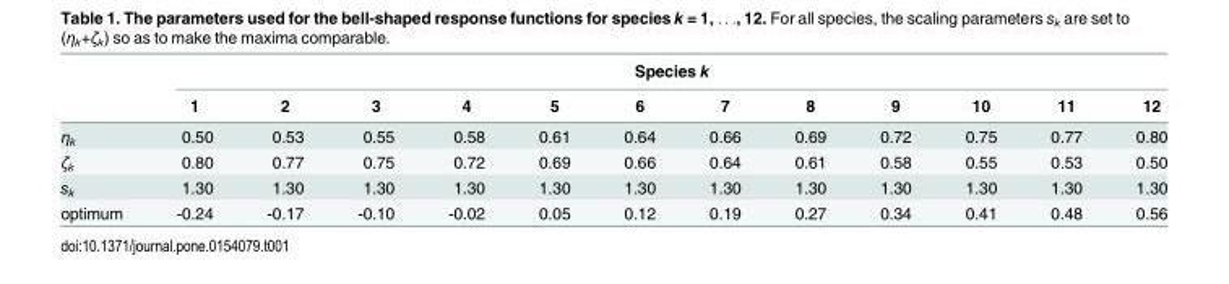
<table><thead><tr><td rowspan="2"></td><td colspan="12">Species k</td></tr><tr><td>1</td><td>2</td><td>3</td><td>4</td><td>5</td><td>6</td><td>7</td><td>8</td><td>9</td><td>10</td><td>11</td><td>12</td></tr></thead><tbody><tr><td>η<sub>k</sub></td><td>0.50</td><td>0.53</td><td>0.55</td><td>0.58</td><td>0.61</td><td>0.64</td><td>0.66</td><td>0.69</td><td>0.72</td><td>0.75</td><td>0.77</td><td>0.80</td></tr><tr><td>ζ<sub>k</sub></td><td>0.80</td><td>0.77</td><td>0.75</td><td>0.72</td><td>0.69</td><td>0.66</td><td>0.64</td><td>0.61</td><td>0.58</td><td>0.55</td><td>0.53</td><td>0.50</td></tr><tr><td>s<sub>k</sub></td><td>1.30</td><td>1.30</td><td>1.30</td><td>1.30</td><td>1.30</td><td>1.30</td><td>1.30</td><td>1.30</td><td>1.30</td><td>1.30</td><td>1.30</td><td>1.30</td></tr><tr><td>optimum</td><td>-0.24</td><td>-0.17</td><td>-0.10</td><td>-0.02</td><td>0.05</td><td>0.12</td><td>0.19</td><td>0.27</td><td>0.34</td><td>0.41</td><td>0.48</td><td>0.56</td></tr></tbody></table>